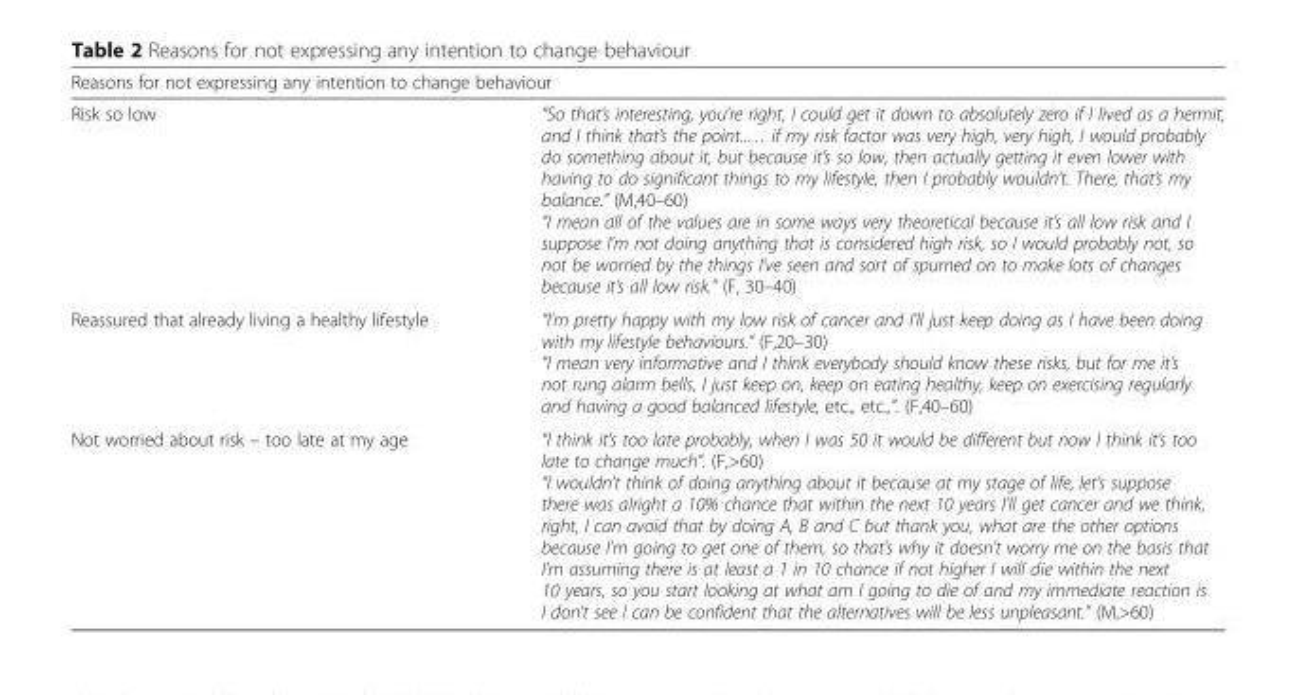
<table><thead><tr><td colspan="2">Reasons for not expressing any intention to change behaviour</td></tr><tr><td>Risk so low</td><td>“So that’s interesting, you’re right, I could get it down to absolutely zero if I lived as a hermit, and I think that’s the point..… if my risk factor was very high, very high, I would probably do something about it, but because it’s so low, then actually getting it even lower with having to do significant things to my lifestyle, then I probably wouldn’t. There, that’s my balance.” (M,40–60) “I mean all of the values are in some ways very theoretical because it’s all low risk and I suppose I’m not doing anything that is considered high risk, so I would probably not, so not be worried by the things I’ve seen and sort of spurned on to make lots of changes because it’s all low risk.” (F, 30–40)</td></tr></thead><tbody><tr><td>Reassured that already living a healthy lifestyle</td><td>“I’m pretty happy with my low risk of cancer and I’ll just keep doing as I have been doing with my lifestyle behaviours.” (F,20–30) “I mean very informative and I think everybody should know these risks, but for me it’s not rung alarm bells, I just keep on, keep on eating healthy, keep on exercising regularly and having a good balanced lifestyle, etc., etc.,”. (F,40–60)</td></tr><tr><td>Not worried about risk – too late at my age</td><td>“I think it’s too late probably, when I was 50 it would be different but now I think it’s too late to change much”. (F,&gt;60) “I wouldn’t think of doing anything about it because at my stage of life, let’s suppose there was alright a 10% chance that within the next 10 years I’ll get cancer and we think, right, I can avoid that by doing A, B and C but thank you, what are the other options because I’m going to get one of them, so that’s why it doesn’t worry me on the basis that I’m assuming there is at least a 1 in 10 chance if not higher I will die within the next 10 years, so you start looking at what am I going to die of and my immediate reaction is I don’t see I can be confident that the alternatives will be less unpleasant.” (M,&gt;60)</td></tr></tbody></table>